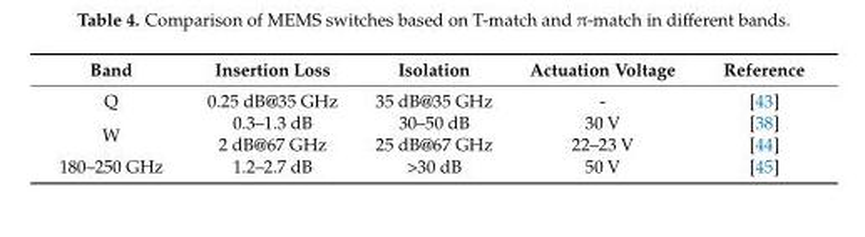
<table><thead><tr><td>Band</td><td>Insertion Loss</td><td>Isolation</td><td>Actuation Voltage</td><td>Reference</td></tr></thead><tbody><tr><td>Q</td><td>0.25 dB@35 GHz</td><td>35 dB@35 GHz</td><td>-</td><td>[43]</td></tr><tr><td rowspan="2">W</td><td>0.3–1.3 dB</td><td>30–50 dB</td><td>30 V</td><td>[38]</td></tr><tr><td>2 dB@67 GHz</td><td>25 dB@67 GHz</td><td>22–23 V</td><td>[44]</td></tr><tr><td>180–250 GHz</td><td>1.2–2.7 dB</td><td>&gt;30 dB</td><td>50 V</td><td>[45]</td></tr></tbody></table>